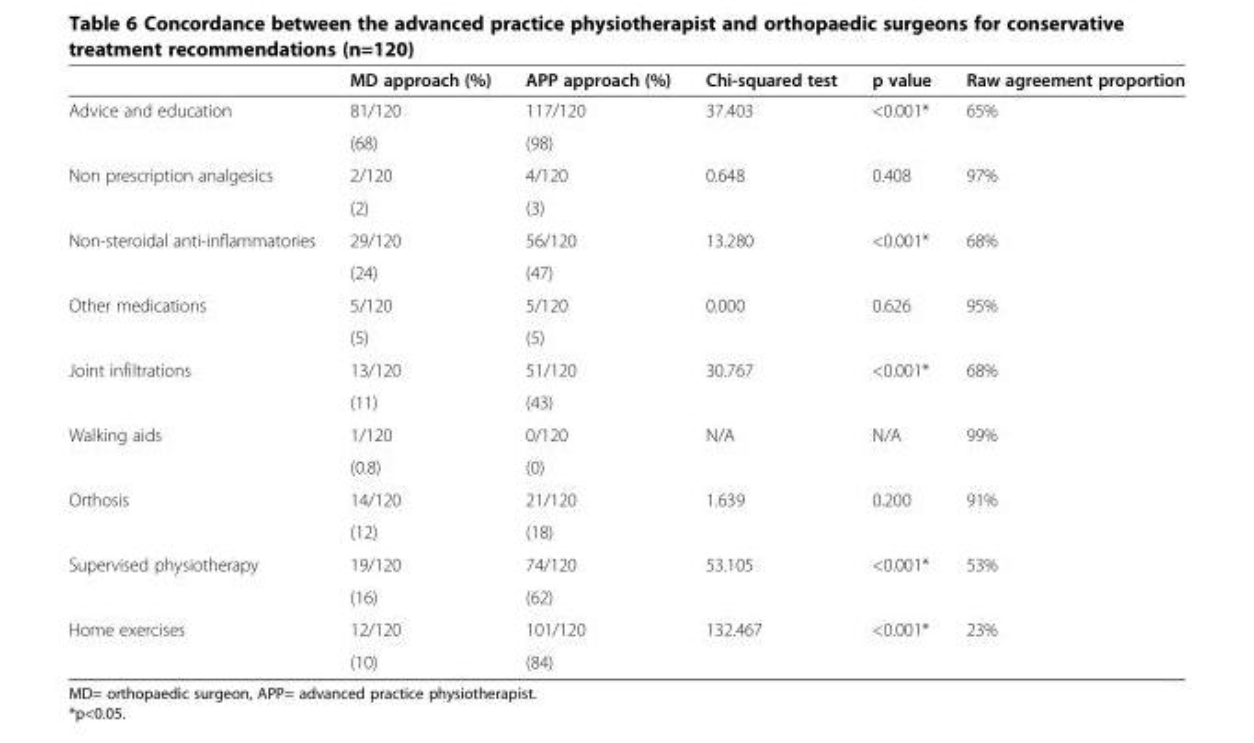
<table><thead><tr><td></td><td>MD approach (%)</td><td>APP approach (%)</td><td>Chi-squared test</td><td>p value</td><td>Raw agreement proportion</td></tr></thead><tbody><tr><td rowspan="2">Advice and education</td><td>81/120</td><td>117/120</td><td rowspan="2">37.403</td><td rowspan="2">&lt;0.001*</td><td rowspan="2">65%</td></tr><tr><td>(68)</td><td>(98)</td></tr><tr><td rowspan="2">Non prescription analgesics</td><td>2/120</td><td>4/120</td><td rowspan="2">0.648</td><td rowspan="2">0.408</td><td rowspan="2">97%</td></tr><tr><td>(2)</td><td>(3)</td></tr><tr><td rowspan="2">Non-steroidal anti-inflammatories</td><td>29/120</td><td>56/120</td><td rowspan="2">13.280</td><td rowspan="2">&lt;0.001*</td><td rowspan="2">68%</td></tr><tr><td>(24)</td><td>(47)</td></tr><tr><td rowspan="2">Other medications</td><td>5/120</td><td>5/120</td><td rowspan="2">0.000</td><td rowspan="2">0.626</td><td rowspan="2">95%</td></tr><tr><td>(5)</td><td>(5)</td></tr><tr><td rowspan="2">Joint infiltrations</td><td>13/120</td><td>51/120</td><td rowspan="2">30.767</td><td rowspan="2">&lt;0.001*</td><td rowspan="2">68%</td></tr><tr><td>(11)</td><td>(43)</td></tr><tr><td rowspan="2">Walking aids</td><td>1/120</td><td>0/120</td><td rowspan="2">N/A</td><td rowspan="2">N/A</td><td rowspan="2">99%</td></tr><tr><td>(0.8)</td><td>(0)</td></tr><tr><td rowspan="2">Orthosis</td><td>14/120</td><td>21/120</td><td rowspan="2">1.639</td><td rowspan="2">0.200</td><td rowspan="2">91%</td></tr><tr><td>(12)</td><td>(18)</td></tr><tr><td rowspan="2">Supervised physiotherapy</td><td>19/120</td><td>74/120</td><td rowspan="2">53.105</td><td rowspan="2">&lt;0.001*</td><td rowspan="2">53%</td></tr><tr><td>(16)</td><td>(62)</td></tr><tr><td rowspan="2">Home exercises</td><td>12/120</td><td>101/120</td><td>132.467</td><td>&lt;0.001*</td><td>23%</td></tr><tr><td>(10)</td><td>(84)</td><td></td><td></td><td></td></tr></tbody></table>